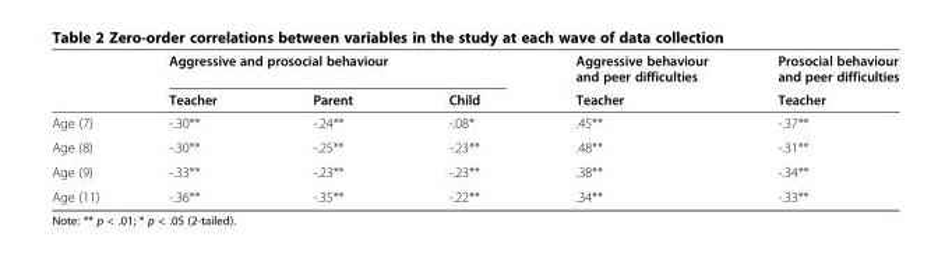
<table><thead><tr><td rowspan="2"></td><td colspan="3">Aggressive and prosocial behaviour</td><td rowspan="2">Aggressive behaviour and peer difficulties Teacher</td><td rowspan="2">Prosocial behaviour and peer difficulties Teacher</td></tr><tr><td>Teacher</td><td>Parent</td><td>Child</td></tr></thead><tbody><tr><td>Age (7)</td><td>-.30**</td><td>-.24**</td><td>-.08*</td><td>.45**</td><td>-.37**</td></tr><tr><td>Age (8)</td><td>-.30**</td><td>-.25**</td><td>-.23**</td><td>.48**</td><td>-.31**</td></tr><tr><td>Age (9)</td><td>-.33**</td><td>-.23**</td><td>-.23**</td><td>.38**</td><td>-.34**</td></tr><tr><td>Age (11)</td><td>-.36**</td><td>-.35**</td><td>-.22**</td><td>.34**</td><td>-.33**</td></tr></tbody></table>